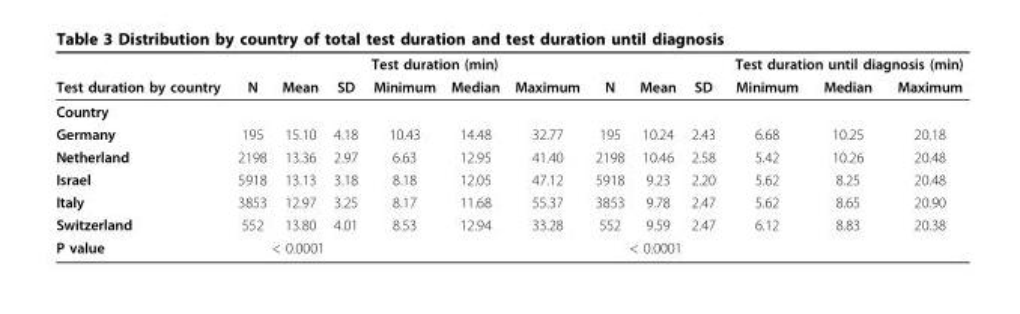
<table><thead><tr><td rowspan="2">Test duration by country</td><td rowspan="2">N</td><td rowspan="2">Mean</td><td rowspan="2">SD</td><td colspan="3">Test duration (min)</td><td rowspan="2">N</td><td rowspan="2">Mean</td><td rowspan="2">SD</td><td colspan="3">Test duration until diagnosis (min)</td></tr><tr><td>Minimum</td><td>Median</td><td>Maximum</td><td>Minimum</td><td>Median</td><td>Maximum</td></tr></thead><tbody><tr><td colspan="13">Country</td></tr><tr><td>Germany</td><td>195</td><td>15.10</td><td>4.18</td><td>10.43</td><td>14.48</td><td>32.77</td><td>195</td><td>10.24</td><td>2.43</td><td>6.68</td><td>10.25</td><td>20.18</td></tr><tr><td>Netherland</td><td>2198</td><td>13.36</td><td>2.97</td><td>6.63</td><td>12.95</td><td>41.40</td><td>2198</td><td>10.46</td><td>2.58</td><td>5.42</td><td>10.26</td><td>20.48</td></tr><tr><td>Israel</td><td>5918</td><td>13.13</td><td>3.18</td><td>8.18</td><td>12.05</td><td>47.12</td><td>5918</td><td>9.23</td><td>2.20</td><td>5.62</td><td>8.25</td><td>20.48</td></tr><tr><td>Italy</td><td>3853</td><td>12.97</td><td>3.25</td><td>8.17</td><td>11.68</td><td>55.37</td><td>3853</td><td>9.78</td><td>2.47</td><td>5.62</td><td>8.65</td><td>20.90</td></tr><tr><td>Switzerland</td><td>552</td><td>13.80</td><td>4.01</td><td>8.53</td><td>12.94</td><td>33.28</td><td>552</td><td>9.59</td><td>2.47</td><td>6.12</td><td>8.83</td><td>20.38</td></tr><tr><td>P value</td><td colspan="3">&lt; 0.0001</td><td></td><td></td><td></td><td colspan="3">&lt; 0.0001</td><td></td><td></td><td></td></tr></tbody></table>